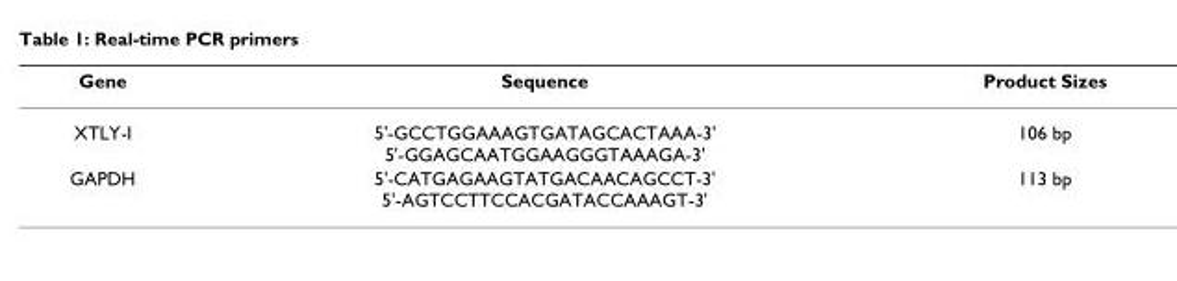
<table><thead><tr><td>Gene</td><td>Sequence</td><td>Product Sizes</td></tr></thead><tbody><tr><td>XTLY-I</td><td>5&#x27;-GCCTGGAAAGTGATAGCACTAAA-3&#x27; 5&#x27;-GGAGCAATGGAAGGGTAAAGA-3&#x27;</td><td>106 bp</td></tr><tr><td>GAPDH</td><td>5&#x27;-CATGAGAAGTATGACAACAGCCT-3&#x27; 5&#x27;-AGTCCTTCCACGATACCAAAGT-3&#x27;</td><td>113 bp</td></tr></tbody></table>